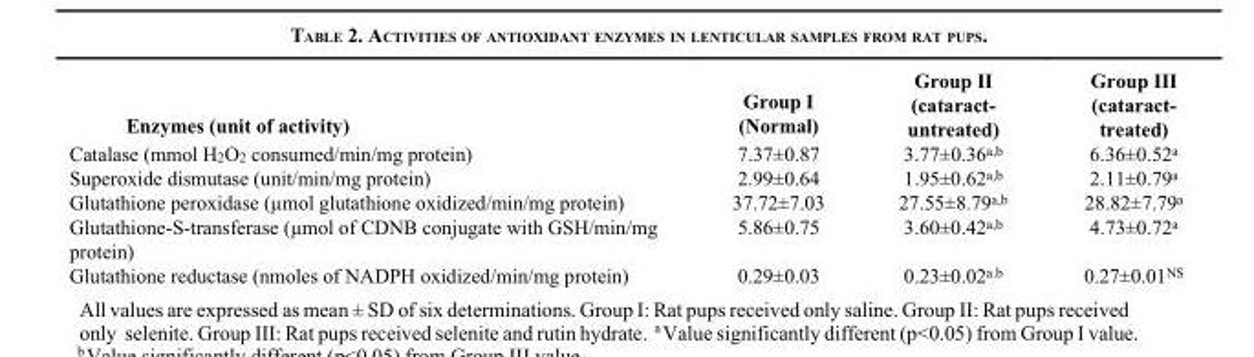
<table><thead><tr><td>Enzymes (unit of activity)</td><td>Group I (Normal)</td><td>Group II (cataract- untreated)</td><td>Group III (cataract- treated)</td></tr></thead><tbody><tr><td>Catalase (mmol H<sub>2</sub>O<sub>2</sub> consumed/min/mg protein)</td><td>7.37±0.87</td><td>3.77±0.36<sup>a,b</sup></td><td>6.36±0.52<sup>a</sup></td></tr><tr><td>Superoxide dismutase (unit/min/mg protein)</td><td>2.99±0.64</td><td>1.95±0.62<sup>a,b</sup></td><td>2.11±0.79<sup>a</sup></td></tr><tr><td>Glutathione peroxidase (µmol glutathione oxidized/min/mg protein)</td><td>37.72±7.03</td><td>27.55±8.79<sup>a,b</sup></td><td>28.82±7.79<sup>a</sup></td></tr><tr><td>Glutathione-S-transferase (µmol of CDNB conjugate with GSH/min/mg protein)</td><td>5.86±0.75</td><td>3.60±0.42<sup>a,b</sup></td><td>4.73±0.72<sup>a</sup></td></tr><tr><td>Glutathione reductase (nmoles of NADPH oxidized/min/mg protein)</td><td>0.29±0.03</td><td>0.23±0.02<sup>a.b</sup></td><td>0.27±0.01<sup>NS</sup></td></tr></tbody></table>